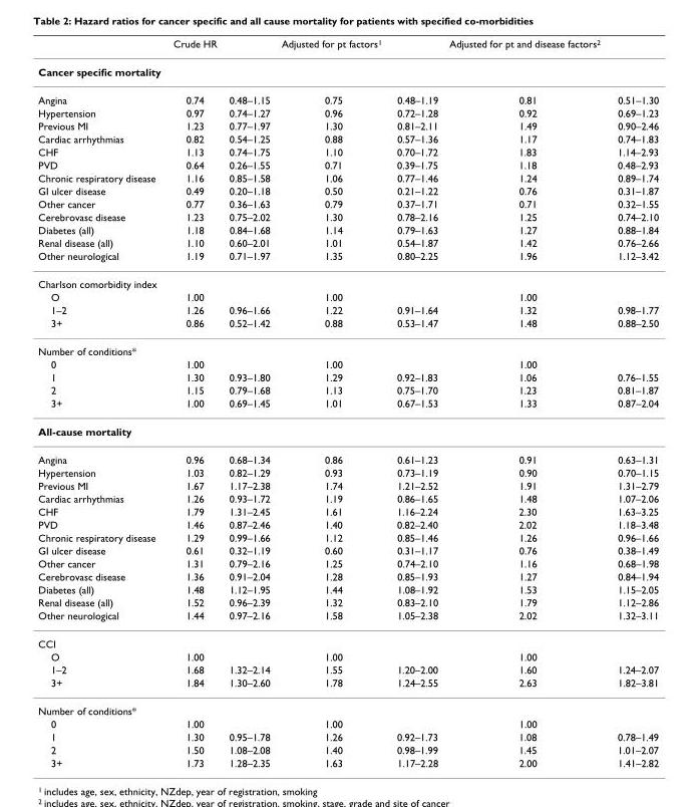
<table><thead><tr><td></td><td>Crude HR</td><td></td><td>Adjusted for pt factors<sup>1</sup></td><td></td><td>Adjusted for pt and disease factors<sup>2</sup></td><td></td></tr></thead><tbody><tr><td colspan="7">Cancer specific mortality</td></tr><tr><td>Angina</td><td>0.74</td><td>0.48–1.15</td><td>0.75</td><td>0.48–1.19</td><td>0.81</td><td>0.51–1.30</td></tr><tr><td>Hypertension</td><td>0.97</td><td>0.74–1.27</td><td>0.96</td><td>0.72–1.28</td><td>0.92</td><td>0.69–1.23</td></tr><tr><td>Previous MI</td><td>1.23</td><td>0.77–1.97</td><td>1.30</td><td>0.81–2.11</td><td>1.49</td><td>0.90–2.46</td></tr><tr><td>Cardiac arrhythmias</td><td>0.82</td><td>0.54–1.25</td><td>0.88</td><td>0.57–1.36</td><td>1.17</td><td>0.74–1.83</td></tr><tr><td>CHF</td><td>1.13</td><td>0.74–1.75</td><td>1.10</td><td>0.70–1.72</td><td>1.83</td><td>1.14–2.93</td></tr><tr><td>PVD</td><td>0.64</td><td>0.26–1.55</td><td>0.71</td><td>0.39–1.75</td><td>1.18</td><td>0.48–2.93</td></tr><tr><td>Chronic respiratory disease</td><td>1.16</td><td>0.85–1.58</td><td>1.06</td><td>0.77–1.46</td><td>1.24</td><td>0.89–1.74</td></tr><tr><td>GI ulcer disease</td><td>0.49</td><td>0.20–1.18</td><td>0.50</td><td>0.21–1.22</td><td>0.76</td><td>0.31–1.87</td></tr><tr><td>Other cancer</td><td>0.77</td><td>0.36–1.63</td><td>0.79</td><td>0.37–1.71</td><td>0.71</td><td>0.32–1.55</td></tr><tr><td>Cerebrovasc disease</td><td>1.23</td><td>0.75–2.02</td><td>1.30</td><td>0.78–2.16</td><td>1.25</td><td>0.74–2.10</td></tr><tr><td>Diabetes (all)</td><td>1.18</td><td>0.84–1.68</td><td>1.14</td><td>0.79–1.63</td><td>1.27</td><td>0.88–1.84</td></tr><tr><td>Renal disease (all)</td><td>1.10</td><td>0.60–2.01</td><td>1.01</td><td>0.54–1.87</td><td>1.42</td><td>0.76–2.66</td></tr><tr><td>Other neurological</td><td>1.19</td><td>0.71–1.97</td><td>1.35</td><td>0.80–2.25</td><td>1.96</td><td>1.12–3.42</td></tr><tr><td colspan="7">Charlson comorbidity index</td></tr><tr><td>O</td><td>1.00</td><td></td><td>1.00</td><td></td><td>1.00</td><td></td></tr><tr><td>1–2</td><td>1.26</td><td>0.96–1.66</td><td>1.22</td><td>0.91–1.64</td><td>1.32</td><td>0.98–1.77</td></tr><tr><td>3+</td><td>0.86</td><td>0.52–1.42</td><td>0.88</td><td>0.53–1.47</td><td>1.48</td><td>0.88–2.50</td></tr><tr><td colspan="7">Number of conditions*</td></tr><tr><td>0</td><td>1.00</td><td></td><td>1.00</td><td></td><td>1.00</td><td></td></tr><tr><td>1</td><td>1.30</td><td>0.93–1.80</td><td>1.29</td><td>0.92–1.83</td><td>1.06</td><td>0.76–1.55</td></tr><tr><td>2</td><td>1.15</td><td>0.79–1.68</td><td>1.13</td><td>0.75–1.70</td><td>1.23</td><td>0.81–1.87</td></tr><tr><td>3+</td><td>1.00</td><td>0.69–1.45</td><td>1.01</td><td>0.67–1.53</td><td>1.33</td><td>0.87–2.04</td></tr><tr><td colspan="7">All-cause mortality</td></tr><tr><td>Angina</td><td>0.96</td><td>0.68–1.34</td><td>0.86</td><td>0.61–1.23</td><td>0.91</td><td>0.63–1.31</td></tr><tr><td>Hypertension</td><td>1.03</td><td>0.82–1.29</td><td>0.93</td><td>0.73–1.19</td><td>0.90</td><td>0.70–1.15</td></tr><tr><td>Previous MI</td><td>1.67</td><td>1.17–2.38</td><td>1.74</td><td>1.21–2.52</td><td>1.91</td><td>1.31–2.79</td></tr><tr><td>Cardiac arrhythmias</td><td>1.26</td><td>0.93–1.72</td><td>1.19</td><td>0.86–1.65</td><td>1.48</td><td>1.07–2.06</td></tr><tr><td>CHF</td><td>1.79</td><td>1.31–2.45</td><td>1.61</td><td>1.16–2.24</td><td>2.30</td><td>1.63–3.25</td></tr><tr><td>PVD</td><td>1.46</td><td>0.87–2.46</td><td>1.40</td><td>0.82–2.40</td><td>2.02</td><td>1.18–3.48</td></tr><tr><td>Chronic respiratory disease</td><td>1.29</td><td>0.99–1.66</td><td>1.12</td><td>0.85–1.46</td><td>1.26</td><td>0.96–1.66</td></tr><tr><td>GI ulcer disease</td><td>0.61</td><td>0.32–1.19</td><td>0.60</td><td>0.31–1.17</td><td>0.76</td><td>0.38–1.49</td></tr><tr><td>Other cancer</td><td>1.31</td><td>0.79–2.16</td><td>1.25</td><td>0.74–2.10</td><td>1.16</td><td>0.68–1.98</td></tr><tr><td>Cerebrovasc disease</td><td>1.36</td><td>0.91–2.04</td><td>1.28</td><td>0.85–1.93</td><td>1.27</td><td>0.84–1.94</td></tr><tr><td>Diabetes (all)</td><td>1.48</td><td>1.12–1.95</td><td>1.44</td><td>1.08–1.92</td><td>1.53</td><td>1.15–2.05</td></tr><tr><td>Renal disease (all)</td><td>1.52</td><td>0.96–2.39</td><td>1.32</td><td>0.83–2.10</td><td>1.79</td><td>1.12–2.86</td></tr><tr><td>Other neurological</td><td>1.44</td><td>0.97–2.16</td><td>1.58</td><td>1.05–2.38</td><td>2.02</td><td>1.32–3.11</td></tr><tr><td colspan="7">CCI</td></tr><tr><td>O</td><td>1.00</td><td></td><td>1.00</td><td></td><td>1.00</td><td></td></tr><tr><td>1–2</td><td>1.68</td><td>1.32–2.14</td><td>1.55</td><td>1.20–2.00</td><td>1.60</td><td>1.24–2.07</td></tr><tr><td>3+</td><td>1.84</td><td>1.30–2.60</td><td>1.78</td><td>1.24–2.55</td><td>2.63</td><td>1.82–3.81</td></tr><tr><td colspan="7">Number of conditions*</td></tr><tr><td>0</td><td>1.00</td><td></td><td>1.00</td><td></td><td>1.00</td><td></td></tr><tr><td>1</td><td>1.30</td><td>0.95–1.78</td><td>1.26</td><td>0.92–1.73</td><td>1.08</td><td>0.78–1.49</td></tr><tr><td>2</td><td>1.50</td><td>1.08–2.08</td><td>1.40</td><td>0.98–1.99</td><td>1.45</td><td>1.01–2.07</td></tr><tr><td>3+</td><td>1.73</td><td>1.28–2.35</td><td>1.63</td><td>1.17–2.28</td><td>2.00</td><td>1.41–2.82</td></tr></tbody></table>